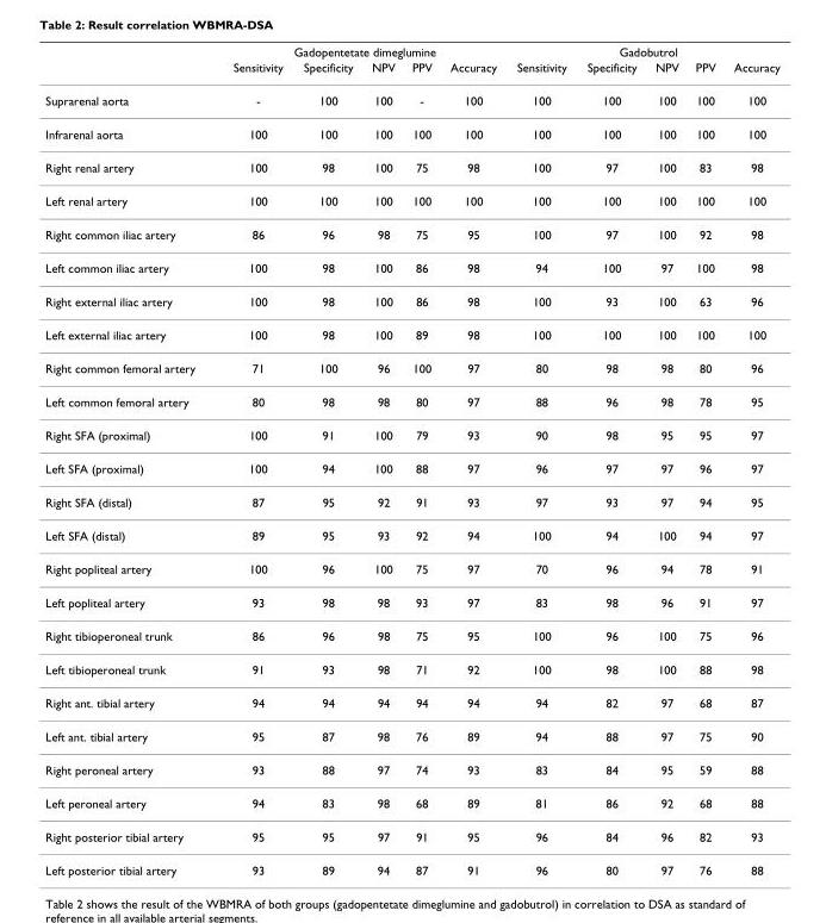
<table><thead><tr><td rowspan="2"></td><td colspan="5">Gadopentetate dimeglumine</td><td colspan="5">Gadobutrol</td></tr><tr><td>Sensitivity</td><td>Specificity</td><td>NPV</td><td>PPV</td><td>Accuracy</td><td>Sensitivity</td><td>Specificity</td><td>NPV</td><td>PPV</td><td>Accuracy</td></tr></thead><tbody><tr><td>Suprarenal aorta</td><td>-</td><td>100</td><td>100</td><td>-</td><td>100</td><td>100</td><td>100</td><td>100</td><td>100</td><td>100</td></tr><tr><td>Infrarenal aorta</td><td>100</td><td>100</td><td>100</td><td>100</td><td>100</td><td>100</td><td>100</td><td>100</td><td>100</td><td>100</td></tr><tr><td>Right renal artery</td><td>100</td><td>98</td><td>100</td><td>75</td><td>98</td><td>100</td><td>97</td><td>100</td><td>83</td><td>98</td></tr><tr><td>Left renal artery</td><td>100</td><td>100</td><td>100</td><td>100</td><td>100</td><td>100</td><td>100</td><td>100</td><td>100</td><td>100</td></tr><tr><td>Right common iliac artery</td><td>86</td><td>96</td><td>98</td><td>75</td><td>95</td><td>100</td><td>97</td><td>100</td><td>92</td><td>98</td></tr><tr><td>Left common iliac artery</td><td>100</td><td>98</td><td>100</td><td>86</td><td>98</td><td>94</td><td>100</td><td>97</td><td>100</td><td>98</td></tr><tr><td>Right external iliac artery</td><td>100</td><td>98</td><td>100</td><td>86</td><td>98</td><td>100</td><td>93</td><td>100</td><td>63</td><td>96</td></tr><tr><td>Left external iliac artery</td><td>100</td><td>98</td><td>100</td><td>89</td><td>98</td><td>100</td><td>100</td><td>100</td><td>100</td><td>100</td></tr><tr><td>Right common femoral artery</td><td>71</td><td>100</td><td>96</td><td>100</td><td>97</td><td>80</td><td>98</td><td>98</td><td>80</td><td>96</td></tr><tr><td>Left common femoral artery</td><td>80</td><td>98</td><td>98</td><td>80</td><td>97</td><td>88</td><td>96</td><td>98</td><td>78</td><td>95</td></tr><tr><td>Right SFA (proximal)</td><td>100</td><td>91</td><td>100</td><td>79</td><td>93</td><td>90</td><td>98</td><td>95</td><td>95</td><td>97</td></tr><tr><td>Left SFA (proximal)</td><td>100</td><td>94</td><td>100</td><td>88</td><td>97</td><td>96</td><td>97</td><td>97</td><td>96</td><td>97</td></tr><tr><td>Right SFA (distal)</td><td>87</td><td>95</td><td>92</td><td>91</td><td>93</td><td>97</td><td>93</td><td>97</td><td>94</td><td>95</td></tr><tr><td>Left SFA (distal)</td><td>89</td><td>95</td><td>93</td><td>92</td><td>94</td><td>100</td><td>94</td><td>100</td><td>94</td><td>97</td></tr><tr><td>Right popliteal artery</td><td>100</td><td>96</td><td>100</td><td>75</td><td>97</td><td>70</td><td>96</td><td>94</td><td>78</td><td>91</td></tr><tr><td>Left popliteal artery</td><td>93</td><td>98</td><td>98</td><td>93</td><td>97</td><td>83</td><td>98</td><td>96</td><td>91</td><td>97</td></tr><tr><td>Right tibioperoneal trunk</td><td>86</td><td>96</td><td>98</td><td>75</td><td>95</td><td>100</td><td>96</td><td>100</td><td>75</td><td>96</td></tr><tr><td>Left tibioperoneal trunk</td><td>91</td><td>93</td><td>98</td><td>71</td><td>92</td><td>100</td><td>98</td><td>100</td><td>88</td><td>98</td></tr><tr><td>Right ant. tibial artery</td><td>94</td><td>94</td><td>94</td><td>94</td><td>94</td><td>94</td><td>82</td><td>97</td><td>68</td><td>87</td></tr><tr><td>Left ant. tibial artery</td><td>95</td><td>87</td><td>98</td><td>76</td><td>89</td><td>94</td><td>88</td><td>97</td><td>75</td><td>90</td></tr><tr><td>Right peroneal artery</td><td>93</td><td>88</td><td>97</td><td>74</td><td>93</td><td>83</td><td>84</td><td>95</td><td>59</td><td>88</td></tr><tr><td>Left peroneal artery</td><td>94</td><td>83</td><td>98</td><td>68</td><td>89</td><td>81</td><td>86</td><td>92</td><td>68</td><td>88</td></tr><tr><td>Right posterior tibial artery</td><td>95</td><td>95</td><td>97</td><td>91</td><td>95</td><td>96</td><td>84</td><td>96</td><td>82</td><td>93</td></tr><tr><td>Left posterior tibial artery</td><td>93</td><td>89</td><td>94</td><td>87</td><td>91</td><td>96</td><td>80</td><td>97</td><td>76</td><td>88</td></tr></tbody></table>